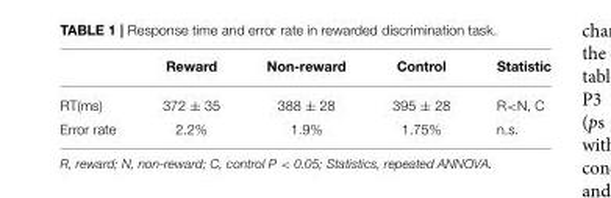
<table><thead><tr><td></td><td>Reward</td><td>Non-reward</td><td>Control</td><td>Statistic</td></tr></thead><tbody><tr><td>RT(ms)</td><td>372 ± 35</td><td>388 ± 28</td><td>395 ± 28</td><td>R&lt;N, C</td></tr><tr><td>Error rate</td><td>2.2%</td><td>1.9%</td><td>1.75%</td><td>n.s.</td></tr></tbody></table>